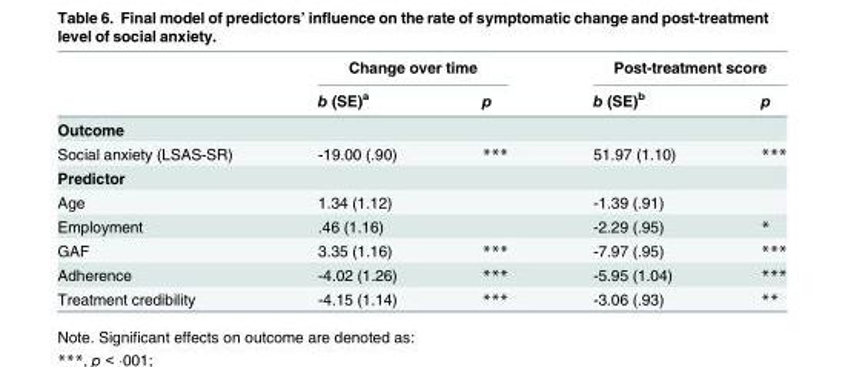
<table><thead><tr><td rowspan="2"></td><td colspan="2">Change over time</td><td colspan="2">Post-treatment score</td></tr><tr><td>b (SE)<sup>a</sup></td><td>p</td><td>b (SE)<sup>b</sup></td><td>p</td></tr></thead><tbody><tr><td colspan="5">Outcome</td></tr><tr><td>Social anxiety (LSAS-SR)</td><td>-19.00 (.90)</td><td>***</td><td>51.97 (1.10)</td><td>***</td></tr><tr><td colspan="5">Predictor</td></tr><tr><td>Age</td><td>1.34 (1.12)</td><td></td><td>-1.39 (.91)</td><td></td></tr><tr><td>Employment</td><td>.46 (1.16)</td><td></td><td>-2.29 (.95)</td><td>*</td></tr><tr><td>GAF</td><td>3.35 (1.16)</td><td>***</td><td>-7.97 (.95)</td><td>***</td></tr><tr><td>Adherence</td><td>-4.02 (1.26)</td><td>***</td><td>-5.95 (1.04)</td><td>***</td></tr><tr><td>Treatment credibility</td><td>-4.15 (1.14)</td><td>***</td><td>-3.06 (.93)</td><td>**</td></tr></tbody></table>